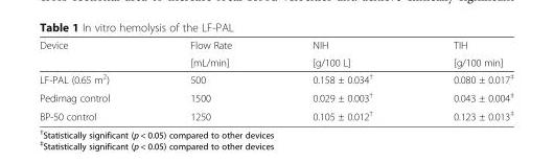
<table><thead><tr><td rowspan="2">Device</td><td rowspan="2">Flow Rate [mL/min]</td><td rowspan="2">NIH [g/100 L]</td><td rowspan="2">TIH [g/100 min]</td></tr><tr></tr></thead><tbody><tr><td>LF-PAL (0.65 m<sup>2</sup>)</td><td>500</td><td>0.158 ± 0.034<sup>†</sup></td><td>0.080 ± 0.017<sup>‡</sup></td></tr><tr><td>Pedimag control</td><td>1500</td><td>0.029 ± 0.003<sup>†</sup></td><td>0.043 ± 0.004<sup>‡</sup></td></tr><tr><td>BP-50 control</td><td>1250</td><td>0.105 ± 0.012<sup>†</sup></td><td>0.123 ± 0.013<sup>‡</sup></td></tr></tbody></table>